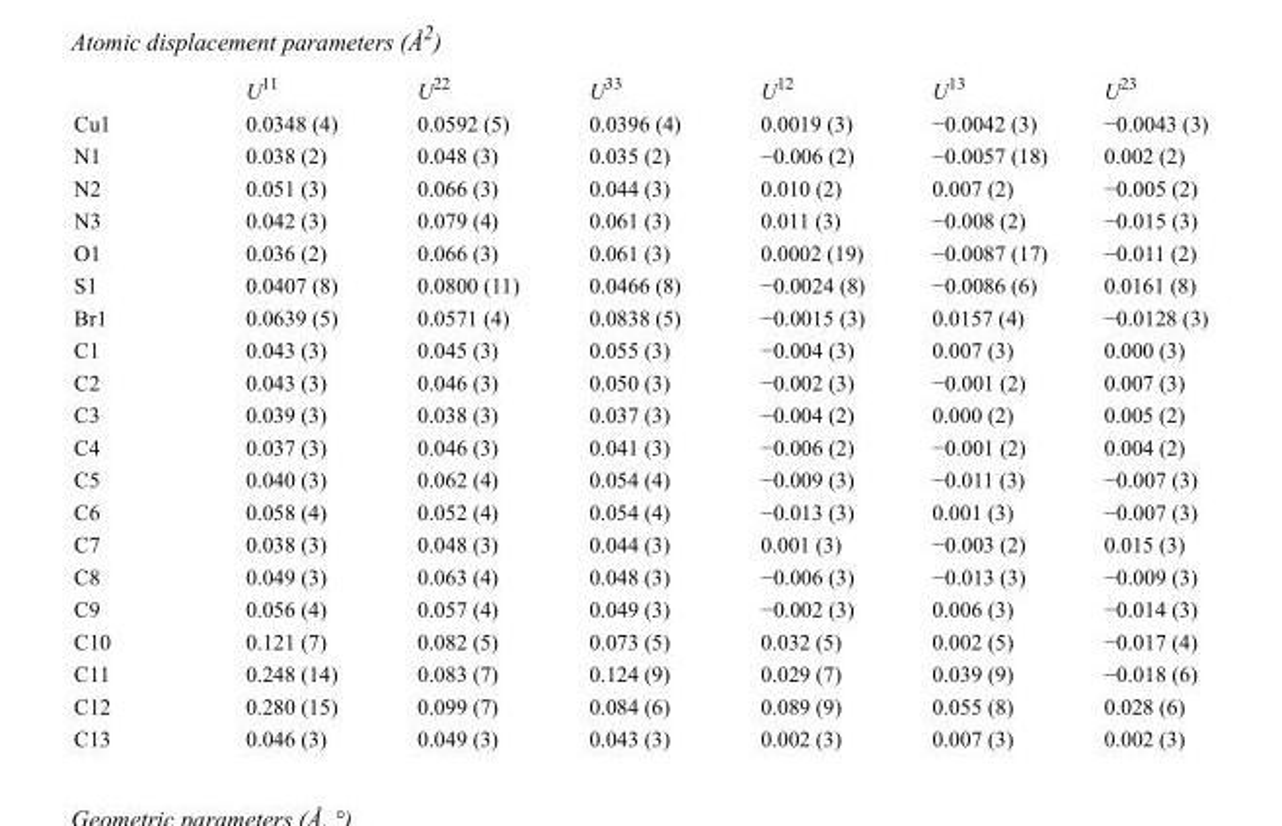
<table><thead><tr><td></td><td>U<sup>11</sup></td><td>U<sup>22</sup></td><td>U<sup>33</sup></td><td>U<sup>12</sup></td><td>U<sup>13</sup></td><td>U<sup>23</sup></td></tr></thead><tbody><tr><td>Cu1</td><td>0.0348 (4)</td><td>0.0592 (5)</td><td>0.0396 (4)</td><td>0.0019 (3)</td><td>−0.0042 (3)</td><td>−0.0043 (3)</td></tr><tr><td>N1</td><td>0.038 (2)</td><td>0.048 (3)</td><td>0.035 (2)</td><td>−0.006 (2)</td><td>−0.0057 (18)</td><td>0.002 (2)</td></tr><tr><td>N2</td><td>0.051 (3)</td><td>0.066 (3)</td><td>0.044 (3)</td><td>0.010 (2)</td><td>0.007 (2)</td><td>−0.005 (2)</td></tr><tr><td>N3</td><td>0.042 (3)</td><td>0.079 (4)</td><td>0.061 (3)</td><td>0.011 (3)</td><td>−0.008 (2)</td><td>−0.015 (3)</td></tr><tr><td>O1</td><td>0.036 (2)</td><td>0.066 (3)</td><td>0.061 (3)</td><td>0.0002 (19)</td><td>−0.0087 (17)</td><td>−0.011 (2)</td></tr><tr><td>S1</td><td>0.0407 (8)</td><td>0.0800 (11)</td><td>0.0466 (8)</td><td>−0.0024 (8)</td><td>−0.0086 (6)</td><td>0.0161 (8)</td></tr><tr><td>Br1</td><td>0.0639 (5)</td><td>0.0571 (4)</td><td>0.0838 (5)</td><td>−0.0015 (3)</td><td>0.0157 (4)</td><td>−0.0128 (3)</td></tr><tr><td>C1</td><td>0.043 (3)</td><td>0.045 (3)</td><td>0.055 (3)</td><td>−0.004 (3)</td><td>0.007 (3)</td><td>0.000 (3)</td></tr><tr><td>C2</td><td>0.043 (3)</td><td>0.046 (3)</td><td>0.050 (3)</td><td>−0.002 (3)</td><td>−0.001 (2)</td><td>0.007 (3)</td></tr><tr><td>C3</td><td>0.039 (3)</td><td>0.038 (3)</td><td>0.037 (3)</td><td>−0.004 (2)</td><td>0.000 (2)</td><td>0.005 (2)</td></tr><tr><td>C4</td><td>0.037 (3)</td><td>0.046 (3)</td><td>0.041 (3)</td><td>−0.006 (2)</td><td>−0.001 (2)</td><td>0.004 (2)</td></tr><tr><td>C5</td><td>0.040 (3)</td><td>0.062 (4)</td><td>0.054 (4)</td><td>−0.009 (3)</td><td>−0.011 (3)</td><td>−0.007 (3)</td></tr><tr><td>C6</td><td>0.058 (4)</td><td>0.052 (4)</td><td>0.054 (4)</td><td>−0.013 (3)</td><td>0.001 (3)</td><td>−0.007 (3)</td></tr><tr><td>C7</td><td>0.038 (3)</td><td>0.048 (3)</td><td>0.044 (3)</td><td>0.001 (3)</td><td>−0.003 (2)</td><td>0.015 (3)</td></tr><tr><td>C8</td><td>0.049 (3)</td><td>0.063 (4)</td><td>0.048 (3)</td><td>−0.006 (3)</td><td>−0.013 (3)</td><td>−0.009 (3)</td></tr><tr><td>C9</td><td>0.056 (4)</td><td>0.057 (4)</td><td>0.049 (3)</td><td>−0.002 (3)</td><td>0.006 (3)</td><td>−0.014 (3)</td></tr><tr><td>C10</td><td>0.121 (7)</td><td>0.082 (5)</td><td>0.073 (5)</td><td>0.032 (5)</td><td>0.002 (5)</td><td>−0.017 (4)</td></tr><tr><td>C11</td><td>0.248 (14)</td><td>0.083 (7)</td><td>0.124 (9)</td><td>0.029 (7)</td><td>0.039 (9)</td><td>−0.018 (6)</td></tr><tr><td>C12</td><td>0.280 (15)</td><td>0.099 (7)</td><td>0.084 (6)</td><td>0.089 (9)</td><td>0.055 (8)</td><td>0.028 (6)</td></tr><tr><td>C13</td><td>0.046 (3)</td><td>0.049 (3)</td><td>0.043 (3)</td><td>0.002 (3)</td><td>0.007 (3)</td><td>0.002 (3)</td></tr></tbody></table>